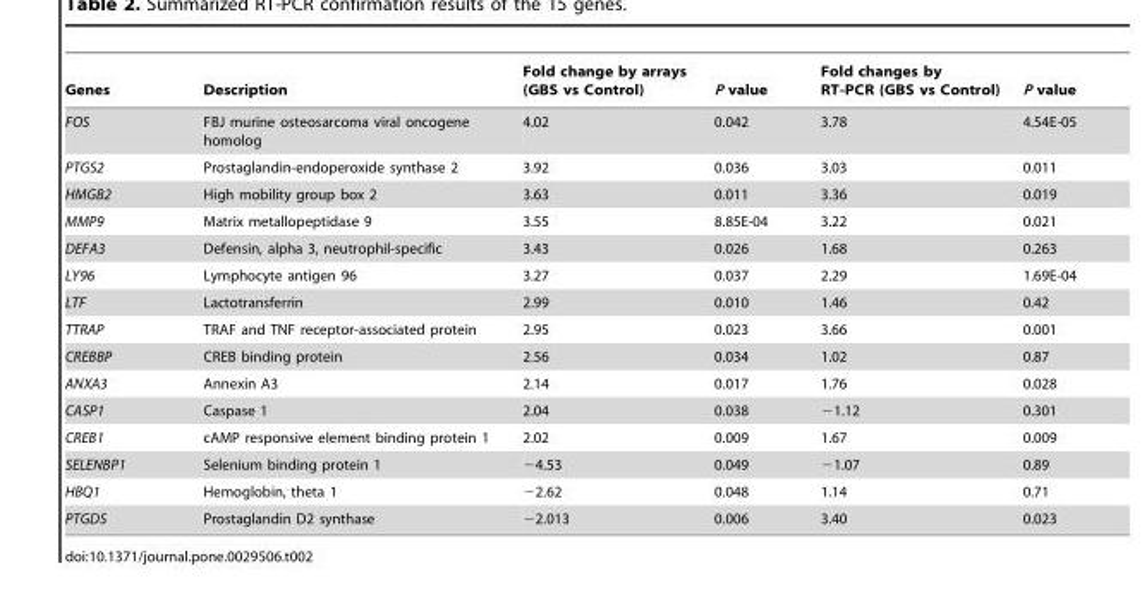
<table><thead><tr><td>Genes</td><td>Description</td><td>Fold change by arrays (GBS vs Control)</td><td>P value</td><td>Fold changes by RT-PCR (GBS vs Control)</td><td>P value</td></tr></thead><tbody><tr><td>FOS</td><td>FBJ murine osteosarcoma viral oncogene homolog</td><td>4.02</td><td>0.042</td><td>3.78</td><td>4.54E-05</td></tr><tr><td>PTGS2</td><td>Prostaglandin-endoperoxide synthase 2</td><td>3.92</td><td>0.036</td><td>3.03</td><td>0.011</td></tr><tr><td>HMGB2</td><td>High mobility group box 2</td><td>3.63</td><td>0.011</td><td>3.36</td><td>0.019</td></tr><tr><td>MMP9</td><td>Matrix metallopeptidase 9</td><td>3.55</td><td>8.85E-04</td><td>3.22</td><td>0.021</td></tr><tr><td>DEFA3</td><td>Defensin, alpha 3, neutrophil-specific</td><td>3.43</td><td>0.026</td><td>1.68</td><td>0.263</td></tr><tr><td>LY96</td><td>Lymphocyte antigen 96</td><td>3.27</td><td>0.037</td><td>2.29</td><td>1.69E-04</td></tr><tr><td>LTF</td><td>Lactotransferrin</td><td>2.99</td><td>0.010</td><td>1.46</td><td>0.42</td></tr><tr><td>TTRAP</td><td>TRAF and TNF receptor-associated protein</td><td>2.95</td><td>0.023</td><td>3.66</td><td>0.001</td></tr><tr><td>CREBBP</td><td>CREB binding protein</td><td>2.56</td><td>0.034</td><td>1.02</td><td>0.87</td></tr><tr><td>ANXA3</td><td>Annexin A3</td><td>2.14</td><td>0.017</td><td>1.76</td><td>0.028</td></tr><tr><td>CASP1</td><td>Caspase 1</td><td>2.04</td><td>0.038</td><td>−1.12</td><td>0.301</td></tr><tr><td>CREB1</td><td>cAMP responsive element binding protein 1</td><td>2.02</td><td>0.009</td><td>1.67</td><td>0.009</td></tr><tr><td>SELENBP1</td><td>Selenium binding protein 1</td><td>−4.53</td><td>0.049</td><td>−1.07</td><td>0.89</td></tr><tr><td>HBQ1</td><td>Hemoglobin, theta 1</td><td>−2.62</td><td>0.048</td><td>1.14</td><td>0.71</td></tr><tr><td>PTGDS</td><td>Prostaglandin D2 synthase</td><td>−2.013</td><td>0.006</td><td>3.40</td><td>0.023</td></tr></tbody></table>